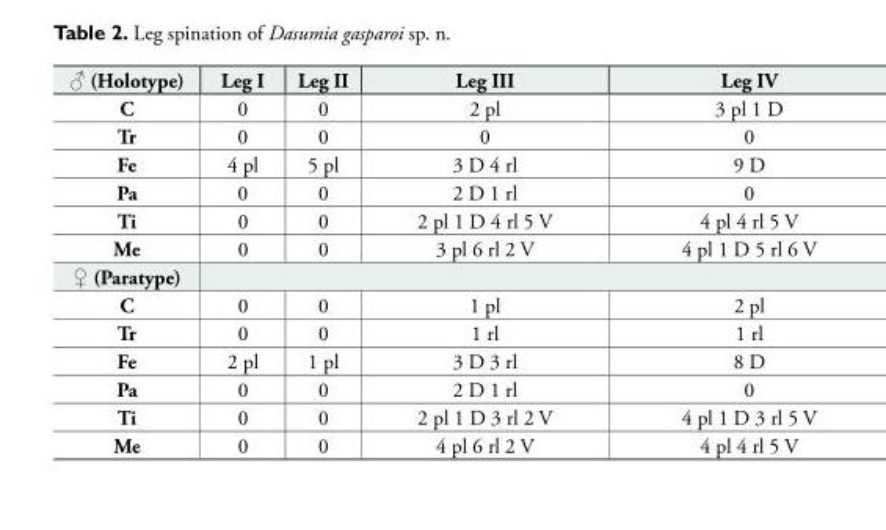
<table><tbody><tr><td>♂ (Holotype)</td><td>Leg I</td><td>Leg II</td><td>Leg III</td><td>Leg IV</td></tr><tr><td>C</td><td>0</td><td>0</td><td>2 pl</td><td>3 pl 1 D</td></tr><tr><td>Tr</td><td>0</td><td>0</td><td>0</td><td>0</td></tr><tr><td>Fe</td><td>4 pl</td><td>5 pl</td><td>3 D 4 rl</td><td>9 D</td></tr><tr><td>Pa</td><td>0</td><td>0</td><td>2 D 1 rl</td><td>0</td></tr><tr><td>Ti</td><td>0</td><td>0</td><td>2 pl 1 D 4 rl 5 V</td><td>4 pl 4 rl 5 V</td></tr><tr><td>Me</td><td>0</td><td>0</td><td>3 pl 6 rl 2 V</td><td>4 pl 1 D 5 rl 6 V</td></tr><tr><td colspan="5">♀ (Paratype)</td></tr><tr><td>C</td><td>0</td><td>0</td><td>1 pl</td><td>2 pl</td></tr><tr><td>Tr</td><td>0</td><td>0</td><td>1 rl</td><td>1 rl</td></tr><tr><td>Fe</td><td>2 pl</td><td>1 pl</td><td>3 D 3 rl</td><td>8 D</td></tr><tr><td>Pa</td><td>0</td><td>0</td><td>2 D 1 rl</td><td>0</td></tr><tr><td>Ti</td><td>0</td><td>0</td><td>2 pl 1 D 3 rl 2 V</td><td>4 pl 1 D 3 rl 5 V</td></tr><tr><td>Me</td><td>0</td><td>0</td><td>4 pl 6 rl 2 V</td><td>4 pl 4 rl 5 V</td></tr></tbody></table>